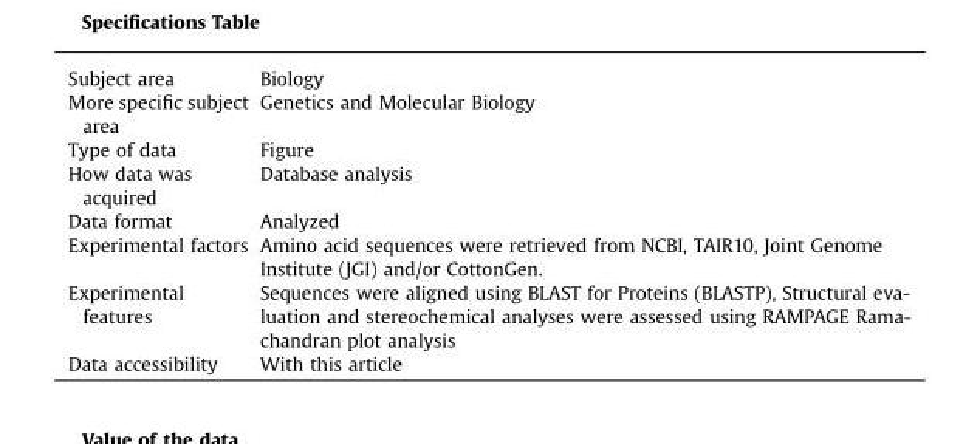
<table><tbody><tr><td>Subject area</td><td>Biology</td></tr><tr><td>More specific subject area</td><td>Genetics and Molecular Biology</td></tr><tr><td>Type of data</td><td>Figure</td></tr><tr><td>How data was acquired</td><td>Database analysis</td></tr><tr><td>Data format</td><td>Analyzed</td></tr><tr><td>Experimental factors</td><td>Amino acid sequences were retrieved from NCBI, TAIR10, Joint Genome Institute (JGI) and/or CottonGen.</td></tr><tr><td>Experimental features</td><td>Sequences were aligned using BLAST for Proteins (BLASTP), Structural eva- luation and stereochemical analyses were assessed using RAMPAGE Rama- chandran plot analysis</td></tr><tr><td>Data accessibility</td><td>With this article</td></tr></tbody></table>